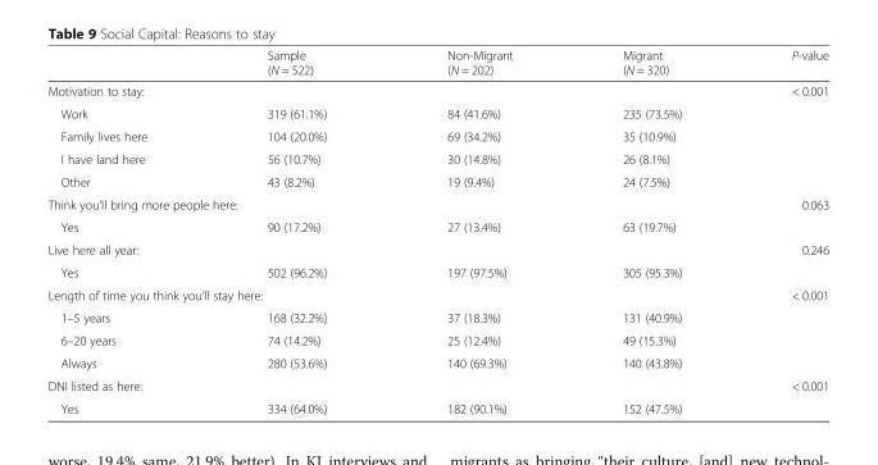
<table><thead><tr><td></td><td>Sample (N = 522)</td><td>Non-Migrant (N = 202)</td><td>Migrant (N = 320)</td><td>P-value</td></tr></thead><tbody><tr><td colspan="3">Motivation to stay:</td><td></td><td>&lt; 0.001</td></tr><tr><td>Work</td><td>319 (61.1%)</td><td>84 (41.6%)</td><td>235 (73.5%)</td><td></td></tr><tr><td>Family lives here</td><td>104 (20.0%)</td><td>69 (34.2%)</td><td>35 (10.9%)</td><td></td></tr><tr><td>I have land here</td><td>56 (10.7%)</td><td>30 (14.8%)</td><td>26 (8.1%)</td><td></td></tr><tr><td>Other</td><td>43 (8.2%)</td><td>19 (9.4%)</td><td>24 (7.5%)</td><td></td></tr><tr><td colspan="2">Think you’ll bring more people here:</td><td></td><td></td><td>0.063</td></tr><tr><td>Yes</td><td>90 (17.2%)</td><td>27 (13.4%)</td><td>63 (19.7%)</td><td></td></tr><tr><td colspan="2">Live here all year:</td><td></td><td></td><td>0.246</td></tr><tr><td>Yes</td><td>502 (96.2%)</td><td>197 (97.5%)</td><td>305 (95.3%)</td><td></td></tr><tr><td colspan="4">Length of time you think you’ll stay here:</td><td>&lt; 0.001</td></tr><tr><td>1–5 years</td><td>168 (32.2%)</td><td>37 (18.3%)</td><td>131 (40.9%)</td><td></td></tr><tr><td>6–20 years</td><td>74 (14.2%)</td><td>25 (12.4%)</td><td>49 (15.3%)</td><td></td></tr><tr><td>Always</td><td>280 (53.6%)</td><td>140 (69.3%)</td><td>140 (43.8%)</td><td></td></tr><tr><td colspan="2">DNI listed as here:</td><td></td><td></td><td>&lt; 0.001</td></tr><tr><td>Yes</td><td>334 (64.0%)</td><td>182 (90.1%)</td><td>152 (47.5%)</td><td></td></tr></tbody></table>